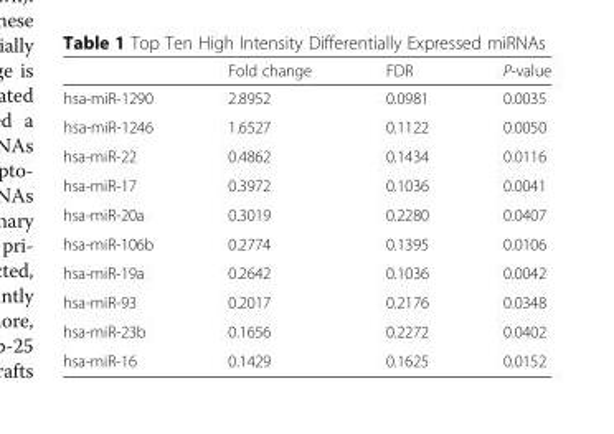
<table><thead><tr><td></td><td>Fold change</td><td>FDR</td><td>P-value</td></tr></thead><tbody><tr><td>hsa-miR-1290</td><td>2.8952</td><td>0.0981</td><td>0.0035</td></tr><tr><td>hsa-miR-1246</td><td>1.6527</td><td>0.1122</td><td>0.0050</td></tr><tr><td>hsa-miR-22</td><td>0.4862</td><td>0.1434</td><td>0.0116</td></tr><tr><td>hsa-miR-17</td><td>0.3972</td><td>0.1036</td><td>0.0041</td></tr><tr><td>hsa-miR-20a</td><td>0.3019</td><td>0.2280</td><td>0.0407</td></tr><tr><td>hsa-miR-106b</td><td>0.2774</td><td>0.1395</td><td>0.0106</td></tr><tr><td>hsa-miR-19a</td><td>0.2642</td><td>0.1036</td><td>0.0042</td></tr><tr><td>hsa-miR-93</td><td>0.2017</td><td>0.2176</td><td>0.0348</td></tr><tr><td>hsa-miR-23b</td><td>0.1656</td><td>0.2272</td><td>0.0402</td></tr><tr><td>hsa-miR-16</td><td>0.1429</td><td>0.1625</td><td>0.0152</td></tr></tbody></table>